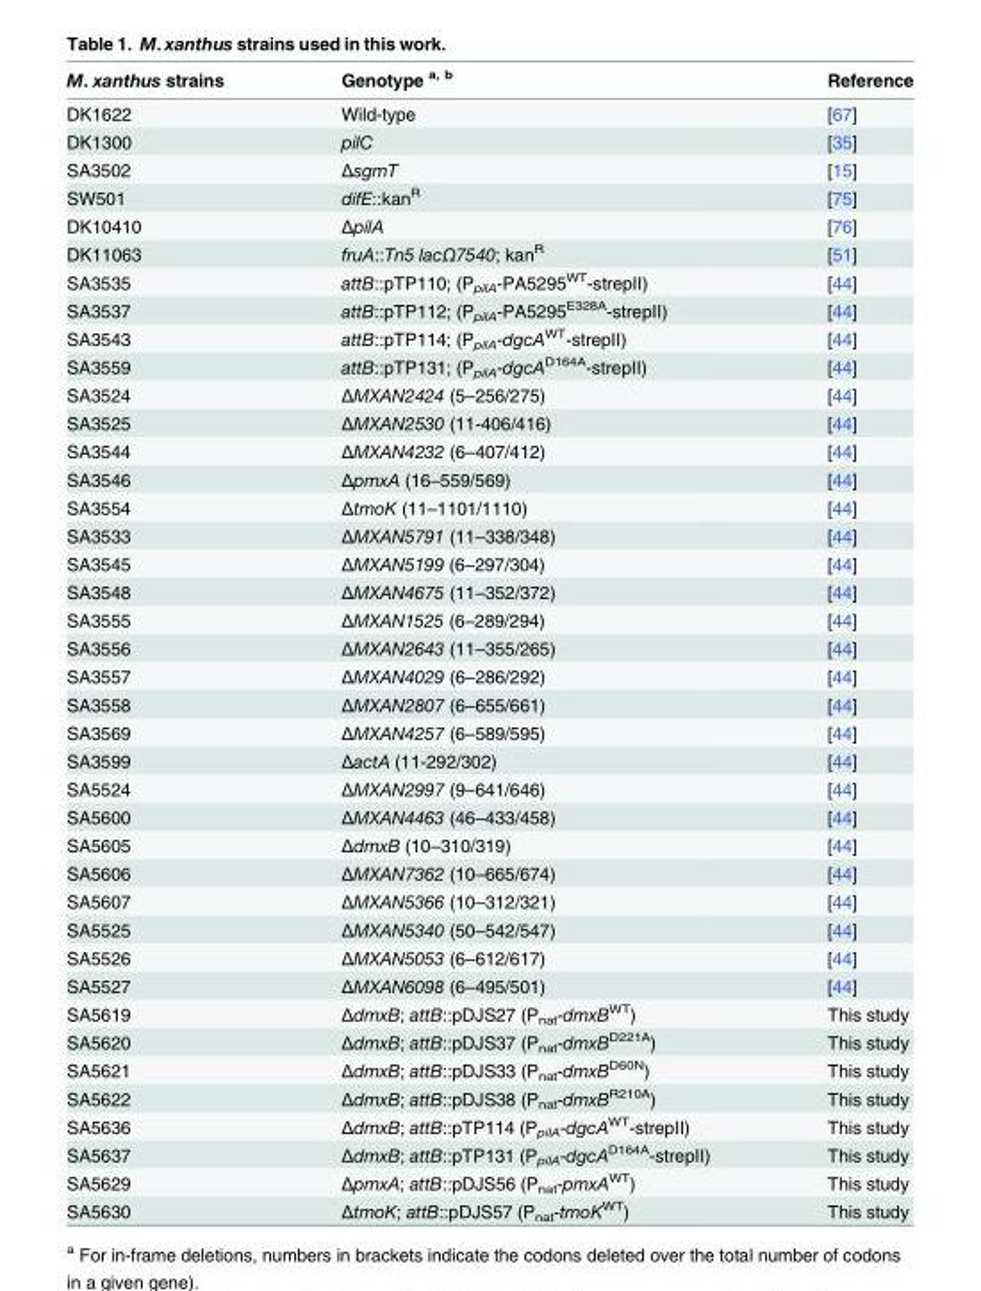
<table><thead><tr><td>M. xanthus strains</td><td>Genotype <sup>a, b</sup></td><td>Reference</td></tr></thead><tbody><tr><td>DK1622</td><td>Wild-type</td><td>[67]</td></tr><tr><td>DK1300</td><td>pilC</td><td>[35]</td></tr><tr><td>SA3502</td><td>ΔsgmT</td><td>[15]</td></tr><tr><td>SW501</td><td>difE::kan<sup>R</sup></td><td>[75]</td></tr><tr><td>DK10410</td><td>ΔpilA</td><td>[76]</td></tr><tr><td>DK11063</td><td>fruA::Tn5 lacΩ7540; kan<sup>R</sup></td><td>[51]</td></tr><tr><td>SA3535</td><td>attB::pTP110; (P<sub>pilA</sub>-PA5295<sup>WT</sup>-strepII)</td><td>[44]</td></tr><tr><td>SA3537</td><td>attB::pTP112; (P<sub>pilA</sub>-PA5295<sup>E328A</sup>-strepII)</td><td>[44]</td></tr><tr><td>SA3543</td><td>attB::pTP114; (P<sub>pilA</sub>-dgcA<sup>WT</sup>-strepII)</td><td>[44]</td></tr><tr><td>SA3559</td><td>attB::pTP131; (P<sub>pilA</sub>-dgcA<sup>D164A</sup>-strepII)</td><td>[44]</td></tr><tr><td>SA3524</td><td>ΔMXAN2424 (5–256/275)</td><td>[44]</td></tr><tr><td>SA3525</td><td>ΔMXAN2530 (11-406/416)</td><td>[44]</td></tr><tr><td>SA3544</td><td>ΔMXAN4232 (6–407/412)</td><td>[44]</td></tr><tr><td>SA3546</td><td>ΔpmxA (16–559/569)</td><td>[44]</td></tr><tr><td>SA3554</td><td>ΔtmoK (11–1101/1110)</td><td>[44]</td></tr><tr><td>SA3533</td><td>ΔMXAN5791 (11–338/348)</td><td>[44]</td></tr><tr><td>SA3545</td><td>ΔMXAN5199 (6–297/304)</td><td>[44]</td></tr><tr><td>SA3548</td><td>ΔMXAN4675 (11–352/372)</td><td>[44]</td></tr><tr><td>SA3555</td><td>ΔMXAN1525 (6–289/294)</td><td>[44]</td></tr><tr><td>SA3556</td><td>ΔMXAN2643 (11–355/265)</td><td>[44]</td></tr><tr><td>SA3557</td><td>ΔMXAN4029 (6–286/292)</td><td>[44]</td></tr><tr><td>SA3558</td><td>ΔMXAN2807 (6–655/661)</td><td>[44]</td></tr><tr><td>SA3569</td><td>ΔMXAN4257 (6–589/595)</td><td>[44]</td></tr><tr><td>SA3599</td><td>ΔactA (11-292/302)</td><td>[44]</td></tr><tr><td>SA5524</td><td>ΔMXAN2997 (9–641/646)</td><td>[44]</td></tr><tr><td>SA5600</td><td>ΔMXAN4463 (46–433/458)</td><td>[44]</td></tr><tr><td>SA5605</td><td>ΔdmxB (10–310/319)</td><td>[44]</td></tr><tr><td>SA5606</td><td>ΔMXAN7362 (10–665/674)</td><td>[44]</td></tr><tr><td>SA5607</td><td>ΔMXAN5366 (10–312/321)</td><td>[44]</td></tr><tr><td>SA5525</td><td>ΔMXAN5340 (50–542/547)</td><td>[44]</td></tr><tr><td>SA5526</td><td>ΔMXAN5053 (6–612/617)</td><td>[44]</td></tr><tr><td>SA5527</td><td>ΔMXAN6098 (6–495/501)</td><td>[44]</td></tr><tr><td>SA5619</td><td>ΔdmxB; attB::pDJS27 (P<sub>nat</sub>-dmxB<sup>WT</sup>)</td><td>This study</td></tr><tr><td>SA5620</td><td>ΔdmxB; attB::pDJS37 (P<sub>nat</sub>-dmxB<sup>D221A</sup>)</td><td>This study</td></tr><tr><td>SA5621</td><td>ΔdmxB; attB::pDJS33 (P<sub>nat</sub>-dmxB<sup>D60N</sup>)</td><td>This study</td></tr><tr><td>SA5622</td><td>ΔdmxB; attB::pDJS38 (P<sub>nat</sub>-dmxB<sup>R210A</sup>)</td><td>This study</td></tr><tr><td>SA5636</td><td>ΔdmxB; attB::pTP114 (P<sub>pilA</sub>-dgcA<sup>WT</sup>-strepII)</td><td>This study</td></tr><tr><td>SA5637</td><td>ΔdmxB; attB::pTP131 (P<sub>pilA</sub>-dgcA<sup>D164A</sup>-strepII)</td><td>This study</td></tr><tr><td>SA5629</td><td>ΔpmxA; attB::pDJS56 (P<sub>nat</sub>-pmxA<sup>WT</sup>)</td><td>This study</td></tr><tr><td>SA5630</td><td>ΔtmoK; attB::pDJS57 (P<sub>nat</sub>-tmoK<sup>WT</sup>)</td><td>This study</td></tr></tbody></table>